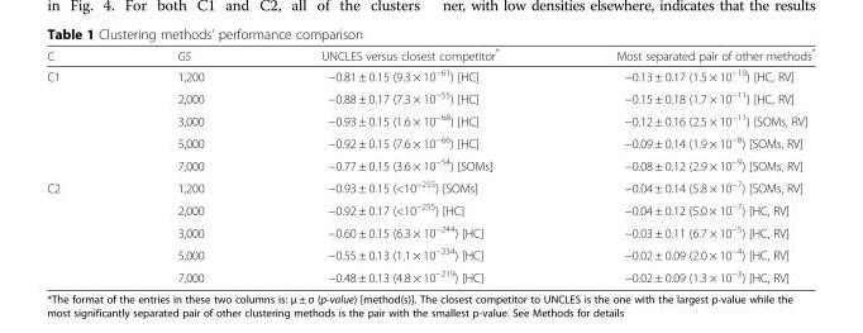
<table><thead><tr><td>C</td><td>GS</td><td>UNCLES versus closest competitor*</td><td>Most separated pair of other methods*</td></tr></thead><tbody><tr><td rowspan="5">C1</td><td>1,200</td><td>−0.81 ± 0.15 (9.3 × 10<sup>−61</sup>) [HC]</td><td>−0.13 ± 0.17 (1.5 × 10<sup>−10</sup>) [HC, RV]</td></tr><tr><td>2,000</td><td>−0.88 ± 0.17 (7.3 × 10<sup>−55</sup>) [HC]</td><td>−0.15 ± 0.18 (1.7 × 10<sup>−11</sup>) [HC, RV]</td></tr><tr><td>3,000</td><td>−0.93 ± 0.15 (1.6 × 10<sup>−68</sup>) [HC]</td><td>−0.12 ± 0.16 (2.5 × 10<sup>−11</sup>) [SOMs, RV]</td></tr><tr><td>5,000</td><td>−0.92 ± 0.15 (7.6 × 10<sup>−66</sup>) [HC]</td><td>−0.09 ± 0.14 (1.9 × 10<sup>−8</sup>) [SOMs, RV]</td></tr><tr><td>7,000</td><td>−0.77 ± 0.15 (3.6 × 10<sup>−54</sup>) [SOMs]</td><td>−0.08 ± 0.12 (2.9 × 10<sup>−9</sup>) [SOMs, RV]</td></tr><tr><td rowspan="5">C2</td><td>1,200</td><td>−0.93 ± 0.15 (&lt;10<sup>−255</sup>) [SOMs]</td><td>−0.04 ± 0.14 (5.8 × 10<sup>−7</sup>) [SOMs, RV]</td></tr><tr><td>2,000</td><td>−0.92 ± 0.17 (&lt;10<sup>−255</sup>) [HC]</td><td>−0.04 ± 0.12 (5.0 × 10<sup>−7</sup>) [HC, RV]</td></tr><tr><td>3,000</td><td>−0.60 ± 0.15 (6.3 × 10<sup>−244</sup>) [HC]</td><td>−0.03 ± 0.11 (6.7 × 10<sup>−5</sup>) [HC, RV]</td></tr><tr><td>5,000</td><td>−0.55 ± 0.13 (1.1 × 10<sup>−234</sup>) [HC]</td><td>−0.02 ± 0.09 (2.0 × 10<sup>−4</sup>) [HC, RV]</td></tr><tr><td>7,000</td><td>−0.48 ± 0.13 (4.8 × 10<sup>−219</sup>) [HC]</td><td>−0.02 ± 0.09 (1.3 × 10<sup>−3</sup>) [HC, RV]</td></tr></tbody></table>